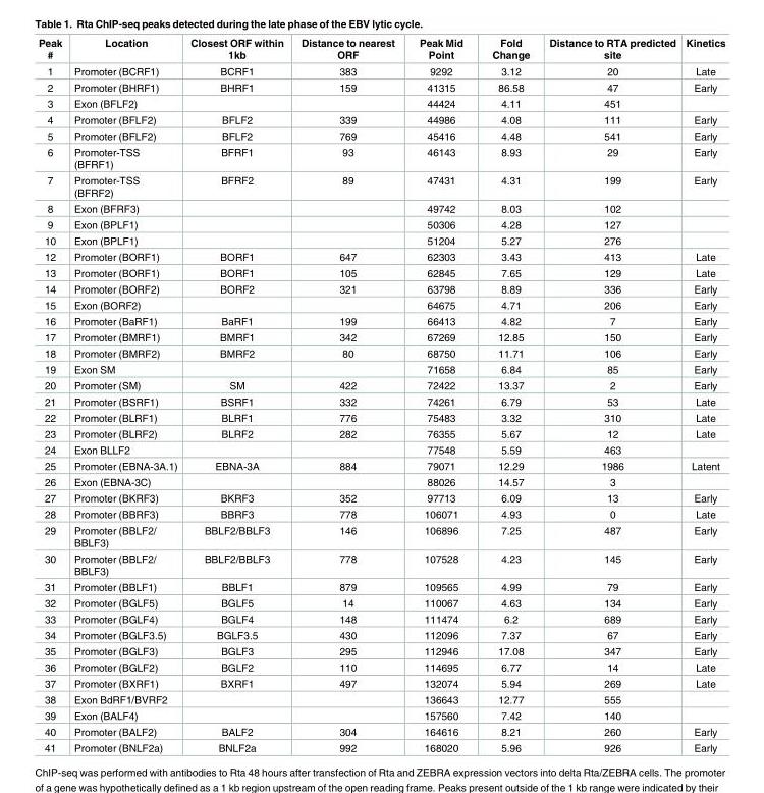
<table><thead><tr><td>Peak #</td><td>Location</td><td>Closest ORF within 1kb</td><td>Distance to nearest ORF</td><td>Peak Mid Point</td><td>Fold Change</td><td>Distance to RTA predicted site</td><td>Kinetics</td></tr></thead><tbody><tr><td>1</td><td>Promoter (BCRF1)</td><td>BCRF1</td><td>383</td><td>9292</td><td>3.12</td><td>20</td><td>Late</td></tr><tr><td>2</td><td>Promoter (BHRF1)</td><td>BHRF1</td><td>159</td><td>41315</td><td>86.58</td><td>47</td><td>Early</td></tr><tr><td>3</td><td>Exon (BFLF2)</td><td></td><td></td><td>44424</td><td>4.11</td><td>451</td><td></td></tr><tr><td>4</td><td>Promoter (BFLF2)</td><td>BFLF2</td><td>339</td><td>44986</td><td>4.08</td><td>111</td><td>Early</td></tr><tr><td>5</td><td>Promoter (BFLF2)</td><td>BFLF2</td><td>769</td><td>45416</td><td>4.48</td><td>541</td><td>Early</td></tr><tr><td>6</td><td>Promoter-TSS (BFRF1)</td><td>BFRF1</td><td>93</td><td>46143</td><td>8.93</td><td>29</td><td>Early</td></tr><tr><td>7</td><td>Promoter-TSS (BFRF2)</td><td>BFRF2</td><td>89</td><td>47431</td><td>4.31</td><td>199</td><td>Early</td></tr><tr><td>8</td><td>Exon (BFRF3)</td><td></td><td></td><td>49742</td><td>8.03</td><td>102</td><td></td></tr><tr><td>9</td><td>Exon (BPLF1)</td><td></td><td></td><td>50306</td><td>4.28</td><td>127</td><td></td></tr><tr><td>10</td><td>Exon (BPLF1)</td><td></td><td></td><td>51204</td><td>5.27</td><td>276</td><td></td></tr><tr><td>12</td><td>Promoter (BORF1)</td><td>BORF1</td><td>647</td><td>62303</td><td>3.43</td><td>413</td><td>Late</td></tr><tr><td>13</td><td>Promoter (BORF1)</td><td>BORF1</td><td>105</td><td>62845</td><td>7.65</td><td>129</td><td>Late</td></tr><tr><td>14</td><td>Promoter (BORF2)</td><td>BORF2</td><td>321</td><td>63798</td><td>8.89</td><td>336</td><td>Early</td></tr><tr><td>15</td><td>Exon (BORF2)</td><td></td><td></td><td>64675</td><td>4.71</td><td>206</td><td>Early</td></tr><tr><td>16</td><td>Promoter (BaRF1)</td><td>BaRF1</td><td>199</td><td>66413</td><td>4.82</td><td>7</td><td>Early</td></tr><tr><td>17</td><td>Promoter (BMRF1)</td><td>BMRF1</td><td>342</td><td>67269</td><td>12.85</td><td>150</td><td>Early</td></tr><tr><td>18</td><td>Promoter (BMRF2)</td><td>BMRF2</td><td>80</td><td>68750</td><td>11.71</td><td>106</td><td>Early</td></tr><tr><td>19</td><td>Exon SM</td><td></td><td></td><td>71658</td><td>6.84</td><td>85</td><td>Early</td></tr><tr><td>20</td><td>Promoter (SM)</td><td>SM</td><td>422</td><td>72422</td><td>13.37</td><td>2</td><td>Early</td></tr><tr><td>21</td><td>Promoter (BSRF1)</td><td>BSRF1</td><td>332</td><td>74261</td><td>6.79</td><td>53</td><td>Late</td></tr><tr><td>22</td><td>Promoter (BLRF1)</td><td>BLRF1</td><td>776</td><td>75483</td><td>3.32</td><td>310</td><td>Late</td></tr><tr><td>23</td><td>Promoter (BLRF2)</td><td>BLRF2</td><td>282</td><td>76355</td><td>5.67</td><td>12</td><td>Late</td></tr><tr><td>24</td><td>Exon BLLF2</td><td></td><td></td><td>77548</td><td>5.59</td><td>463</td><td></td></tr><tr><td>25</td><td>Promoter (EBNA-3A.1)</td><td>EBNA-3A</td><td>884</td><td>79071</td><td>12.29</td><td>1986</td><td>Latent</td></tr><tr><td>26</td><td>Exon (EBNA-3C)</td><td></td><td></td><td>88026</td><td>14.57</td><td>3</td><td></td></tr><tr><td>27</td><td>Promoter (BKRF3)</td><td>BKRF3</td><td>352</td><td>97713</td><td>6.09</td><td>13</td><td>Early</td></tr><tr><td>28</td><td>Promoter (BBRF3)</td><td>BBRF3</td><td>778</td><td>106071</td><td>4.93</td><td>0</td><td>Late</td></tr><tr><td>29</td><td>Promoter (BBLF2/ BBLF3)</td><td>BBLF2/BBLF3</td><td>146</td><td>106896</td><td>7.25</td><td>487</td><td>Early</td></tr><tr><td>30</td><td>Promoter (BBLF2/ BBLF3)</td><td>BBLF2/BBLF3</td><td>778</td><td>107528</td><td>4.23</td><td>145</td><td>Early</td></tr><tr><td>31</td><td>Promoter (BBLF1)</td><td>BBLF1</td><td>879</td><td>109565</td><td>4.99</td><td>79</td><td>Early</td></tr><tr><td>32</td><td>Promoter (BGLF5)</td><td>BGLF5</td><td>14</td><td>110067</td><td>4.63</td><td>134</td><td>Early</td></tr><tr><td>33</td><td>Promoter (BGLF4)</td><td>BGLF4</td><td>148</td><td>111474</td><td>6.2</td><td>689</td><td>Early</td></tr><tr><td>34</td><td>Promoter (BGLF3.5)</td><td>BGLF3.5</td><td>430</td><td>112096</td><td>7.37</td><td>67</td><td>Early</td></tr><tr><td>35</td><td>Promoter (BGLF3)</td><td>BGLF3</td><td>295</td><td>112946</td><td>17.08</td><td>347</td><td>Early</td></tr><tr><td>36</td><td>Promoter (BGLF2)</td><td>BGLF2</td><td>110</td><td>114695</td><td>6.77</td><td>14</td><td>Late</td></tr><tr><td>37</td><td>Promoter (BXRF1)</td><td>BXRF1</td><td>497</td><td>132074</td><td>5.94</td><td>269</td><td>Late</td></tr><tr><td>38</td><td>Exon BdRF1/BVRF2</td><td></td><td></td><td>136643</td><td>12.77</td><td>555</td><td></td></tr><tr><td>39</td><td>Exon (BALF4)</td><td></td><td></td><td>157560</td><td>7.42</td><td>140</td><td></td></tr><tr><td>40</td><td>Promoter (BALF2)</td><td>BALF2</td><td>304</td><td>164616</td><td>8.21</td><td>260</td><td>Early</td></tr><tr><td>41</td><td>Promoter (BNLF2a)</td><td>BNLF2a</td><td>992</td><td>168020</td><td>5.96</td><td>926</td><td>Early</td></tr></tbody></table>